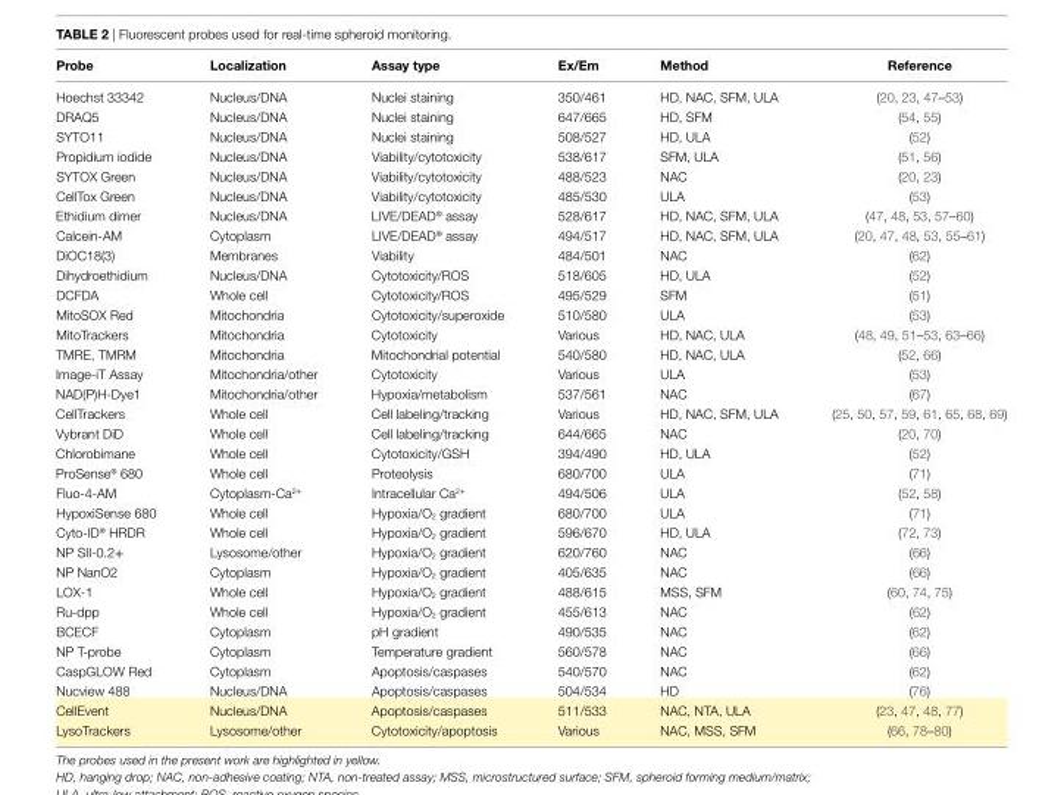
<table><thead><tr><td>Probe</td><td>Localization</td><td>assay type</td><td>ex/em</td><td>Method</td><td>Reference</td></tr></thead><tbody><tr><td>Hoechst 33342</td><td>Nucleus/DNA</td><td>Nuclei staining</td><td>350/461</td><td>HD, NAC, SFM, ULA</td><td>(20, 23, 47–53)</td></tr><tr><td>DRAQ5</td><td>Nucleus/DNA</td><td>Nuclei staining</td><td>647/665</td><td>HD, SFM</td><td>(54, 55)</td></tr><tr><td>SYTO11</td><td>Nucleus/DNA</td><td>Nuclei staining</td><td>508/527</td><td>HD, ULA</td><td>(52)</td></tr><tr><td>Propidium iodide</td><td>Nucleus/DNA</td><td>Viability/cytotoxicity</td><td>538/617</td><td>SFM, ULA</td><td>(51, 56)</td></tr><tr><td>SYTOX Green</td><td>Nucleus/DNA</td><td>Viability/cytotoxicity</td><td>488/523</td><td>NAC</td><td>(20, 23)</td></tr><tr><td>CellTox Green</td><td>Nucleus/DNA</td><td>Viability/cytotoxicity</td><td>485/530</td><td>ULA</td><td>(53)</td></tr><tr><td>Ethidium dimer</td><td>Nucleus/DNA</td><td>LIVE/DEAD<sup>®</sup> assay</td><td>528/617</td><td>HD, NAC, SFM, ULA</td><td>(47, 48, 53, 57–60)</td></tr><tr><td>Calcein-AM</td><td>Cytoplasm</td><td>LIVE/DEAD<sup>®</sup> assay</td><td>494/517</td><td>HD, NAC, SFM, ULA</td><td>(20, 47, 48, 53, 55–61)</td></tr><tr><td>DiOC18(3)</td><td>Membranes</td><td>Viability</td><td>484/501</td><td>NAC</td><td>(62)</td></tr><tr><td>Dihydroethidium</td><td>Nucleus/DNA</td><td>Cytotoxicity/ROS</td><td>518/605</td><td>HD, ULA</td><td>(52)</td></tr><tr><td>DCFDA</td><td>Whole cell</td><td>Cytotoxicity/ROS</td><td>495/529</td><td>SFM</td><td>(51)</td></tr><tr><td>MitoSOX Red</td><td>Mitochondria</td><td>Cytotoxicity/superoxide</td><td>510/580</td><td>ULA</td><td>(53)</td></tr><tr><td>MitoTrackers</td><td>Mitochondria</td><td>Cytotoxicity</td><td>Various</td><td>HD, NAC, ULA</td><td>(48, 49, 51–53, 63–66)</td></tr><tr><td>TMRE, TMRM</td><td>Mitochondria</td><td>Mitochondrial potential</td><td>540/580</td><td>HD, NAC, ULA</td><td>(52, 66)</td></tr><tr><td>Image-iT Assay</td><td>Mitochondria/other</td><td>Cytotoxicity</td><td>Various</td><td>ULA</td><td>(53)</td></tr><tr><td>NAD(P)H-Dye1</td><td>Mitochondria/other</td><td>Hypoxia/metabolism</td><td>537/561</td><td>NAC</td><td>(67)</td></tr><tr><td>CellTrackers</td><td>Whole cell</td><td>Cell labeling/tracking</td><td>Various</td><td>HD, NAC, SFM, ULA</td><td>(25, 50, 57, 59, 61, 65, 68, 69)</td></tr><tr><td>Vybrant DiD</td><td>Whole cell</td><td>Cell labeling/tracking</td><td>644/665</td><td>NAC</td><td>(20, 70)</td></tr><tr><td>Chlorobimane</td><td>Whole cell</td><td>Cytotoxicity/GSH</td><td>394/490</td><td>HD, ULA</td><td>(52)</td></tr><tr><td>ProSense<sup>®</sup> 680</td><td>Whole cell</td><td>Proteolysis</td><td>680/700</td><td>ULA</td><td>(71)</td></tr><tr><td>Fluo-4-AM</td><td>Cytoplasm-Ca<sup>2+</sup></td><td>Intracellular Ca<sup>2+</sup></td><td>494/506</td><td>ULA</td><td>(52, 58)</td></tr><tr><td>HypoxiSense 680</td><td>Whole cell</td><td>Hypoxia/O<sub>2</sub> gradient</td><td>680/700</td><td>ULA</td><td>(71)</td></tr><tr><td>Cyto-ID<sup>®</sup> HRDR</td><td>Whole cell</td><td>Hypoxia/O<sub>2</sub> gradient</td><td>596/670</td><td>HD, ULA</td><td>(72, 73)</td></tr><tr><td>NP SII-0.2+</td><td>Lysosome/other</td><td>Hypoxia/O<sub>2</sub> gradient</td><td>620/760</td><td>NAC</td><td>(66)</td></tr><tr><td>NP NanO2</td><td>Cytoplasm</td><td>Hypoxia/O<sub>2</sub> gradient</td><td>405/635</td><td>NAC</td><td>(66)</td></tr><tr><td>LOX-1</td><td>Whole cell</td><td>Hypoxia/O<sub>2</sub> gradient</td><td>488/615</td><td>MSS, SFM</td><td>(60, 74, 75)</td></tr><tr><td>Ru-dpp</td><td>Whole cell</td><td>Hypoxia/O<sub>2</sub> gradient</td><td>455/613</td><td>NAC</td><td>(62)</td></tr><tr><td>BCECF</td><td>Cytoplasm</td><td>pH gradient</td><td>490/535</td><td>NAC</td><td>(62)</td></tr><tr><td>NP T-probe</td><td>Cytoplasm</td><td>Temperature gradient</td><td>560/578</td><td>NAC</td><td>(66)</td></tr><tr><td>CaspGLOW Red</td><td>Cytoplasm</td><td>Apoptosis/caspases</td><td>540/570</td><td>NAC</td><td>(62)</td></tr><tr><td>Nucview 488</td><td>Nucleus/DNA</td><td>Apoptosis/caspases</td><td>504/534</td><td>HD</td><td>(76)</td></tr><tr><td>CellEvent</td><td>Nucleus/DNA</td><td>Apoptosis/caspases</td><td>511/533</td><td>NAC, NTA, ULA</td><td>(23, 47, 48, 77)</td></tr><tr><td>LysoTrackers</td><td>Lysosome/other</td><td>Cytotoxicity/apoptosis</td><td>Various</td><td>NAC, MSS, SFM</td><td>(66, 78–80)</td></tr></tbody></table>